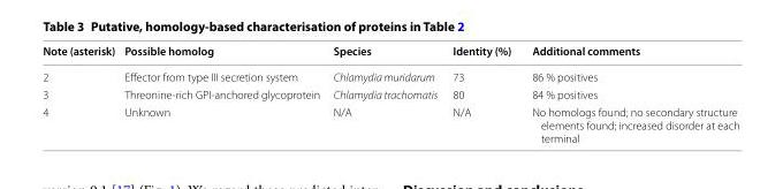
<table><thead><tr><td>Note (asterisk)</td><td>Possible homolog</td><td>Species</td><td>Identity (%)</td><td>Additional comments</td></tr></thead><tbody><tr><td>2</td><td>Effector from type III secretion system</td><td>Chlamydia muridarum</td><td>73</td><td>86 % positives</td></tr><tr><td>3</td><td>Threonine-rich GPI-anchored glycoprotein</td><td>Chlamydia trachomatis</td><td>80</td><td>84 % positives</td></tr><tr><td>4</td><td>Unknown</td><td>N/A</td><td>N/A</td><td>No homologs found; no secondary structure elements found; increased disorder at each terminal</td></tr></tbody></table>